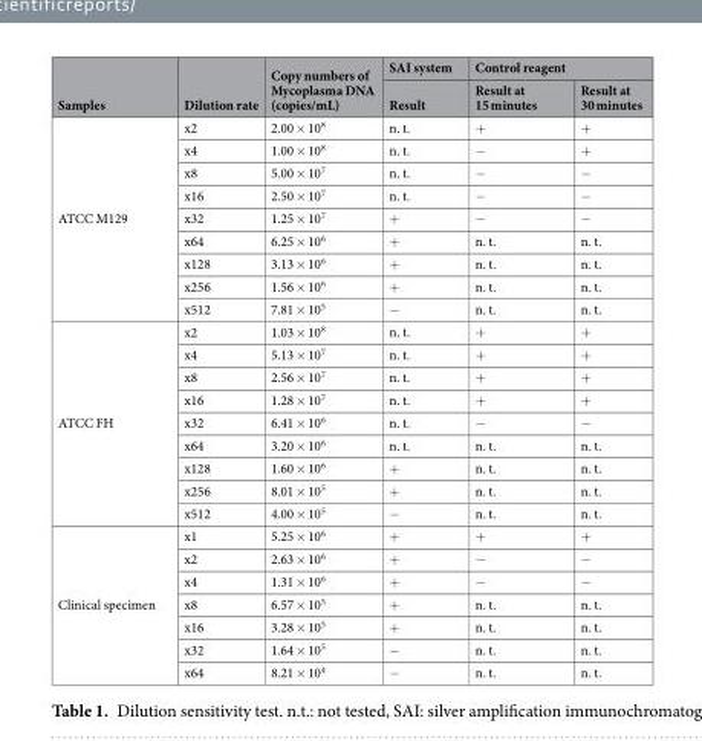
<table><thead><tr><td rowspan="2">Samples</td><td rowspan="2">Dilution rate</td><td rowspan="2">Copy numbers of Mycoplasma DNA (copies/mL)</td><td rowspan="2">SAI system Result</td><td colspan="2">Control reagent</td></tr><tr><td>Result at 15 minutes</td><td>Result at 30 minutes</td></tr></thead><tbody><tr><td rowspan="9">ATCC M129</td><td>x2</td><td>2.00 × 10<sup>8</sup></td><td>n. t.</td><td>+</td><td>+</td></tr><tr><td>x4</td><td>1.00 × 10<sup>8</sup></td><td>n. t.</td><td>−</td><td>+</td></tr><tr><td>x8</td><td>5.00 × 10<sup>7</sup></td><td>n. t.</td><td>−</td><td>−</td></tr><tr><td>x16</td><td>2.50 × 10<sup>7</sup></td><td>n. t.</td><td>−</td><td>−</td></tr><tr><td>x32</td><td>1.25 × 10<sup>7</sup></td><td>+</td><td>−</td><td>−</td></tr><tr><td>x64</td><td>6.25 × 10<sup>6</sup></td><td>+</td><td>n. t.</td><td>n. t.</td></tr><tr><td>x128</td><td>3.13 × 10<sup>6</sup></td><td>+</td><td>n. t.</td><td>n. t.</td></tr><tr><td>x256</td><td>1.56 × 10<sup>6</sup></td><td>+</td><td>n. t.</td><td>n. t.</td></tr><tr><td>x512</td><td>7.81 × 10<sup>5</sup></td><td>−</td><td>n. t.</td><td>n. t.</td></tr><tr><td rowspan="9">ATCC FH</td><td>x2</td><td>1.03 × 10<sup>8</sup></td><td>n. t.</td><td>+</td><td>+</td></tr><tr><td>x4</td><td>5.13 × 10<sup>7</sup></td><td>n. t.</td><td>+</td><td>+</td></tr><tr><td>x8</td><td>2.56 × 10<sup>7</sup></td><td>n. t.</td><td>+</td><td>+</td></tr><tr><td>x16</td><td>1.28 × 10<sup>7</sup></td><td>n. t.</td><td>+</td><td>+</td></tr><tr><td>x32</td><td>6.41 × 10<sup>6</sup></td><td>n. t.</td><td>−</td><td>−</td></tr><tr><td>x64</td><td>3.20 × 10<sup>6</sup></td><td>n. t.</td><td>n. t.</td><td>n. t.</td></tr><tr><td>x128</td><td>1.60 × 10<sup>6</sup></td><td>+</td><td>n. t.</td><td>n. t.</td></tr><tr><td>x256</td><td>8.01 × 10<sup>5</sup></td><td>+</td><td>n. t.</td><td>n. t.</td></tr><tr><td>x512</td><td>4.00 × 10<sup>5</sup></td><td>−</td><td>n. t.</td><td>n. t.</td></tr><tr><td rowspan="7">Clinical specimen</td><td>x1</td><td>5.25 × 10<sup>6</sup></td><td>+</td><td>+</td><td>+</td></tr><tr><td>x2</td><td>2.63 × 10<sup>6</sup></td><td>+</td><td>−</td><td>−</td></tr><tr><td>x4</td><td>1.31 × 10<sup>6</sup></td><td>+</td><td>−</td><td>−</td></tr><tr><td>x8</td><td>6.57 × 10<sup>5</sup></td><td>+</td><td>n. t.</td><td>n. t.</td></tr><tr><td>x16</td><td>3.28 × 10<sup>5</sup></td><td>+</td><td>n. t.</td><td>n. t.</td></tr><tr><td>x32</td><td>1.64 × 10<sup>5</sup></td><td>−</td><td>n. t.</td><td>n. t.</td></tr><tr><td>x64</td><td>8.21 × 10<sup>4</sup></td><td>−</td><td>n. t.</td><td>n. t.</td></tr></tbody></table>